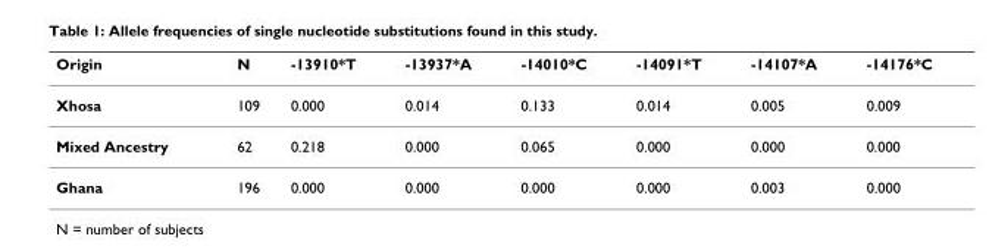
<table><thead><tr><td>Origin</td><td>N</td><td>-13910*T</td><td>-13937*A</td><td>-14010*C</td><td>-14091*T</td><td>-14107*A</td><td>-14176*C</td></tr></thead><tbody><tr><td>Xhosa</td><td>109</td><td>0.000</td><td>0.014</td><td>0.133</td><td>0.014</td><td>0.005</td><td>0.009</td></tr><tr><td>Mixed Ancestry</td><td>62</td><td>0.218</td><td>0.000</td><td>0.065</td><td>0.000</td><td>0.000</td><td>0.000</td></tr><tr><td>Ghana</td><td>196</td><td>0.000</td><td>0.000</td><td>0.000</td><td>0.000</td><td>0.003</td><td>0.000</td></tr></tbody></table>